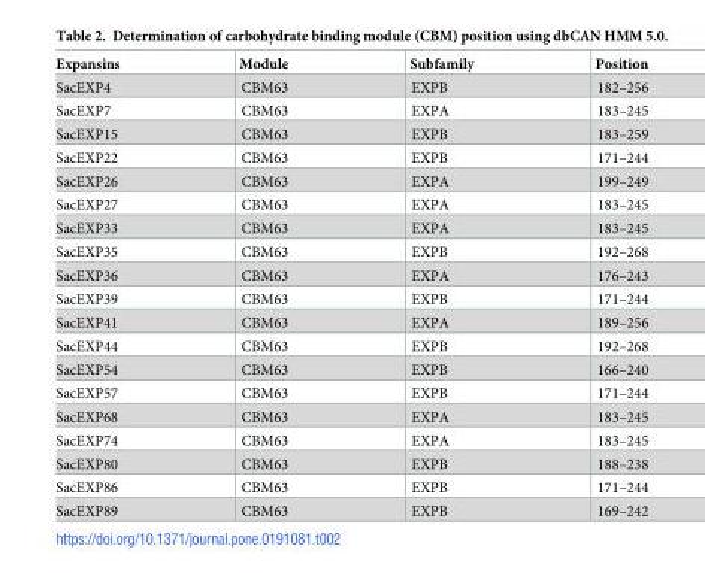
<table><thead><tr><td>Expansins</td><td>Module</td><td>Subfamily</td><td>Position</td></tr></thead><tbody><tr><td>SacEXP4</td><td>CBM63</td><td>EXPB</td><td>182–256</td></tr><tr><td>SacEXP7</td><td>CBM63</td><td>EXPA</td><td>183–245</td></tr><tr><td>SacEXP15</td><td>CBM63</td><td>EXPB</td><td>183–259</td></tr><tr><td>SacEXP22</td><td>CBM63</td><td>EXPB</td><td>171–244</td></tr><tr><td>SacEXP26</td><td>CBM63</td><td>EXPA</td><td>199–249</td></tr><tr><td>SacEXP27</td><td>CBM63</td><td>EXPA</td><td>183–245</td></tr><tr><td>SacEXP33</td><td>CBM63</td><td>EXPA</td><td>183–245</td></tr><tr><td>SacEXP35</td><td>CBM63</td><td>EXPB</td><td>192–268</td></tr><tr><td>SacEXP36</td><td>CBM63</td><td>EXPA</td><td>176–243</td></tr><tr><td>SacEXP39</td><td>CBM63</td><td>EXPB</td><td>171–244</td></tr><tr><td>SacEXP41</td><td>CBM63</td><td>EXPA</td><td>189–256</td></tr><tr><td>SacEXP44</td><td>CBM63</td><td>EXPB</td><td>192–268</td></tr><tr><td>SacEXP54</td><td>CBM63</td><td>EXPB</td><td>166–240</td></tr><tr><td>SacEXP57</td><td>CBM63</td><td>EXPB</td><td>171–244</td></tr><tr><td>SacEXP68</td><td>CBM63</td><td>EXPA</td><td>183–245</td></tr><tr><td>SacEXP74</td><td>CBM63</td><td>EXPA</td><td>183–245</td></tr><tr><td>SacEXP80</td><td>CBM63</td><td>EXPB</td><td>188–238</td></tr><tr><td>SacEXP86</td><td>CBM63</td><td>EXPB</td><td>171–244</td></tr><tr><td>SacEXP89</td><td>CBM63</td><td>EXPB</td><td>169–242</td></tr></tbody></table>